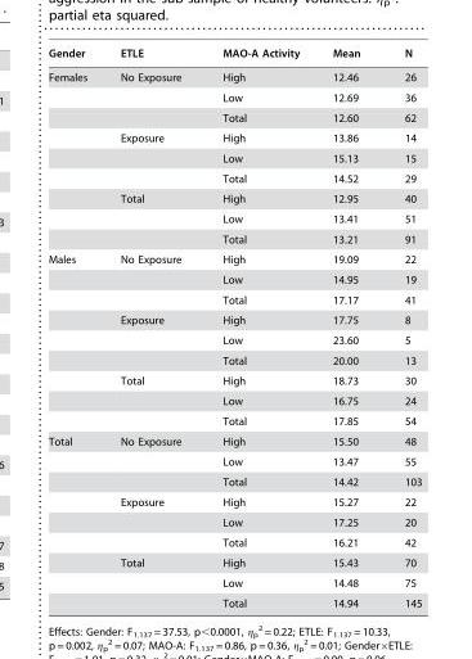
<table><thead><tr><td>Gender</td><td>ETLE</td><td>MAO-A Activity</td><td>Mean</td><td>N</td></tr></thead><tbody><tr><td rowspan="9">Females</td><td>No Exposure</td><td>High</td><td>12.46</td><td>26</td></tr><tr><td></td><td>Low</td><td>12.69</td><td>36</td></tr><tr><td></td><td>Total</td><td>12.60</td><td>62</td></tr><tr><td>Exposure</td><td>High</td><td>13.86</td><td>14</td></tr><tr><td></td><td>Low</td><td>15.13</td><td>15</td></tr><tr><td></td><td>Total</td><td>14.52</td><td>29</td></tr><tr><td>Total</td><td>High</td><td>12.95</td><td>40</td></tr><tr><td></td><td>Low</td><td>13.41</td><td>51</td></tr><tr><td></td><td>Total</td><td>13.21</td><td>91</td></tr><tr><td rowspan="9">Males</td><td>No Exposure</td><td>High</td><td>19.09</td><td>22</td></tr><tr><td></td><td>Low</td><td>14.95</td><td>19</td></tr><tr><td></td><td>Total</td><td>17.17</td><td>41</td></tr><tr><td>Exposure</td><td>High</td><td>17.75</td><td>8</td></tr><tr><td></td><td>Low</td><td>23.60</td><td>5</td></tr><tr><td></td><td>Total</td><td>20.00</td><td>13</td></tr><tr><td>Total</td><td>High</td><td>18.73</td><td>30</td></tr><tr><td></td><td>Low</td><td>16.75</td><td>24</td></tr><tr><td></td><td>Total</td><td>17.85</td><td>54</td></tr><tr><td rowspan="9">Total</td><td>No Exposure</td><td>High</td><td>15.50</td><td>48</td></tr><tr><td></td><td>Low</td><td>13.47</td><td>55</td></tr><tr><td></td><td>Total</td><td>14.42</td><td>103</td></tr><tr><td>Exposure</td><td>High</td><td>15.27</td><td>22</td></tr><tr><td></td><td>Low</td><td>17.25</td><td>20</td></tr><tr><td></td><td>Total</td><td>16.21</td><td>42</td></tr><tr><td>Total</td><td>High</td><td>15.43</td><td>70</td></tr><tr><td></td><td>Low</td><td>14.48</td><td>75</td></tr><tr><td></td><td>Total</td><td>14.94</td><td>145</td></tr></tbody></table>